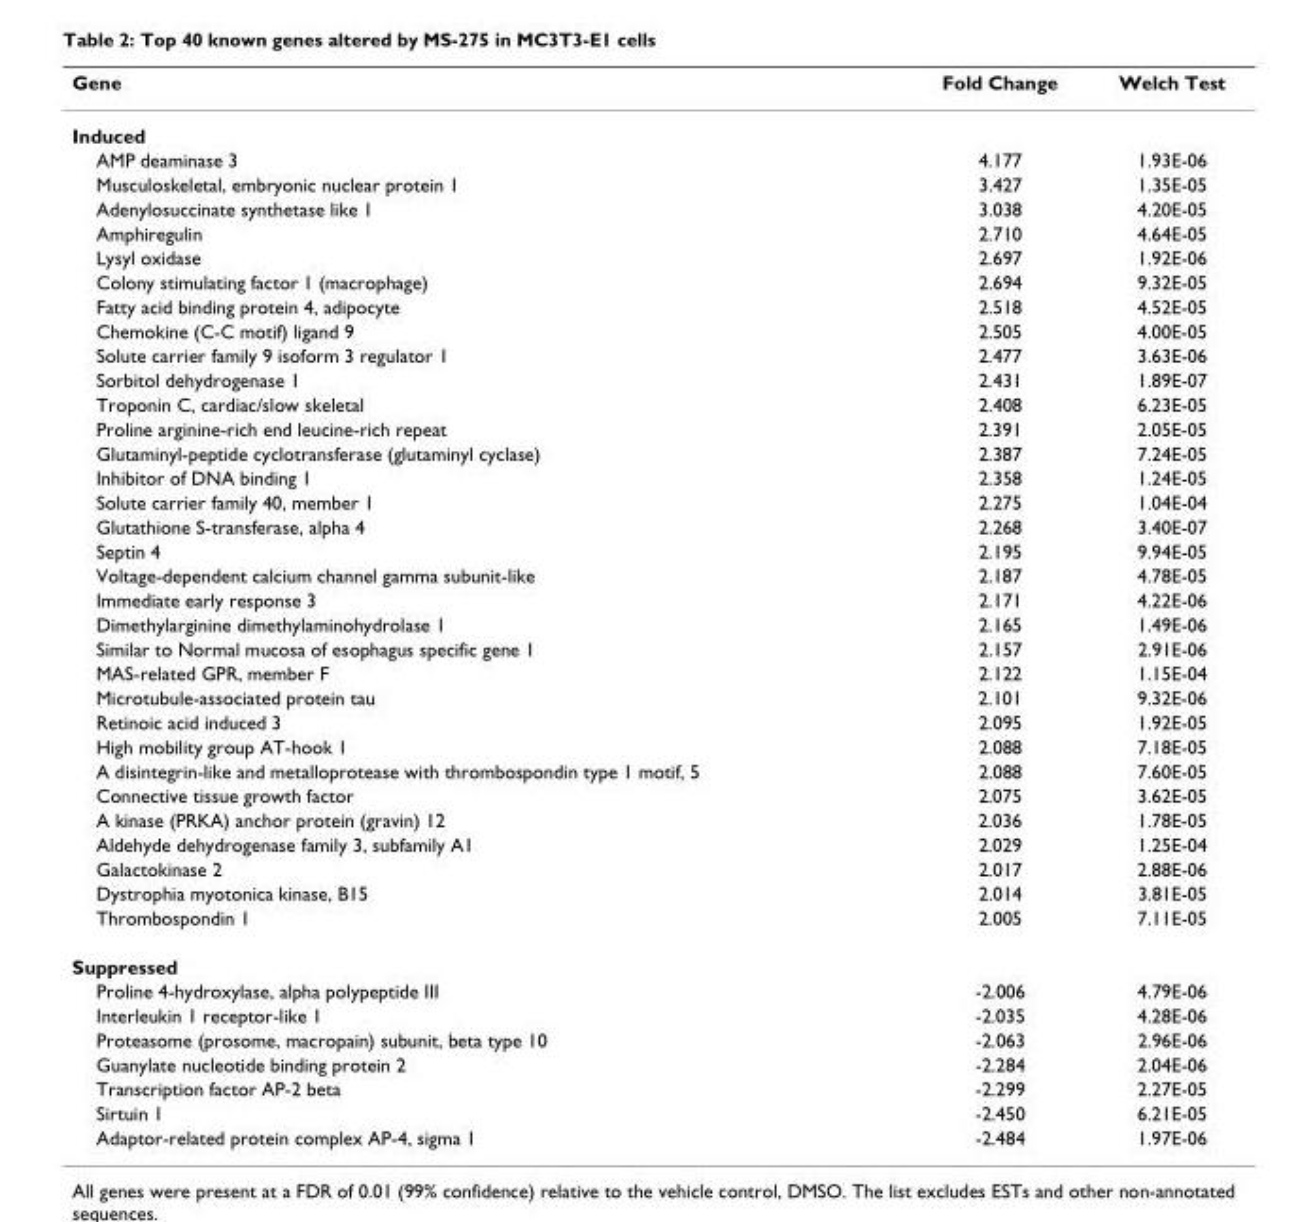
<table><thead><tr><td>Gene</td><td>Fold Change</td><td>Welch Test</td></tr></thead><tbody><tr><td colspan="3">Induced</td></tr><tr><td>AMP deaminase 3</td><td>4.177</td><td>1.93E-06</td></tr><tr><td>Musculoskeletal, embryonic nuclear protein 1</td><td>3.427</td><td>1.35E-05</td></tr><tr><td>Adenylosuccinate synthetase like 1</td><td>3.038</td><td>4.20E-05</td></tr><tr><td>Amphiregulin</td><td>2.710</td><td>4.64E-05</td></tr><tr><td>Lysyl oxidase</td><td>2.697</td><td>1.92E-06</td></tr><tr><td>Colony stimulating factor 1 (macrophage)</td><td>2.694</td><td>9.32E-05</td></tr><tr><td>Fatty acid binding protein 4, adipocyte</td><td>2.518</td><td>4.52E-05</td></tr><tr><td>Chemokine (C-C motif) ligand 9</td><td>2.505</td><td>4.00E-05</td></tr><tr><td>Solute carrier family 9 isoform 3 regulator 1</td><td>2.477</td><td>3.63E-06</td></tr><tr><td>Sorbitol dehydrogenase 1</td><td>2.431</td><td>1.89E-07</td></tr><tr><td>Troponin C, cardiac/slow skeletal</td><td>2.408</td><td>6.23E-05</td></tr><tr><td>Proline arginine-rich end leucine-rich repeat</td><td>2.391</td><td>2.05E-05</td></tr><tr><td>Glutaminyl-peptide cyclotransferase (glutaminyl cyclase)</td><td>2.387</td><td>7.24E-05</td></tr><tr><td>Inhibitor of DNA binding 1</td><td>2.358</td><td>1.24E-05</td></tr><tr><td>Solute carrier family 40, member 1</td><td>2.275</td><td>1.04E-04</td></tr><tr><td>Glutathione S-transferase, alpha 4</td><td>2.268</td><td>3.40E-07</td></tr><tr><td>Septin 4</td><td>2.195</td><td>9.94E-05</td></tr><tr><td>Voltage-dependent calcium channel gamma subunit-like</td><td>2.187</td><td>4.78E-05</td></tr><tr><td>Immediate early response 3</td><td>2.171</td><td>4.22E-06</td></tr><tr><td>Dimethylarginine dimethylaminohydrolase 1</td><td>2.165</td><td>1.49E-06</td></tr><tr><td>Similar to Normal mucosa of esophagus specific gene 1</td><td>2.157</td><td>2.91E-06</td></tr><tr><td>MAS-related GPR, member F</td><td>2.122</td><td>1.15E-04</td></tr><tr><td>Microtubule-associated protein tau</td><td>2.101</td><td>9.32E-06</td></tr><tr><td>Retinoic acid induced 3</td><td>2.095</td><td>1.92E-05</td></tr><tr><td>High mobility group AT-hook 1</td><td>2.088</td><td>7.18E-05</td></tr><tr><td>A disintegrin-like and metalloprotease with thrombospondin type 1 motif, 5</td><td>2.088</td><td>7.60E-05</td></tr><tr><td>Connective tissue growth factor</td><td>2.075</td><td>3.62E-05</td></tr><tr><td>A kinase (PRKA) anchor protein (gravin) 12</td><td>2.036</td><td>1.78E-05</td></tr><tr><td>Aldehyde dehydrogenase family 3, subfamily A1</td><td>2.029</td><td>1.25E-04</td></tr><tr><td>Galactokinase 2</td><td>2.017</td><td>2.88E-06</td></tr><tr><td>Dystrophia myotonica kinase, B15</td><td>2.014</td><td>3.81E-05</td></tr><tr><td>Thrombospondin 1</td><td>2.005</td><td>7.11E-05</td></tr><tr><td colspan="3">Suppressed</td></tr><tr><td>Proline 4-hydroxylase, alpha polypeptide III</td><td>-2.006</td><td>4.79E-06</td></tr><tr><td>Interleukin 1 receptor-like 1</td><td>-2.035</td><td>4.28E-06</td></tr><tr><td>Proteasome (prosome, macropain) subunit, beta type 10</td><td>-2.063</td><td>2.96E-06</td></tr><tr><td>Guanylate nucleotide binding protein 2</td><td>-2.284</td><td>2.04E-06</td></tr><tr><td>Transcription factor AP-2 beta</td><td>-2.299</td><td>2.27E-05</td></tr><tr><td>Sirtuin 1</td><td>-2.450</td><td>6.21E-05</td></tr><tr><td>Adaptor-related protein complex AP-4, sigma 1</td><td>-2.484</td><td>1.97E-06</td></tr></tbody></table>